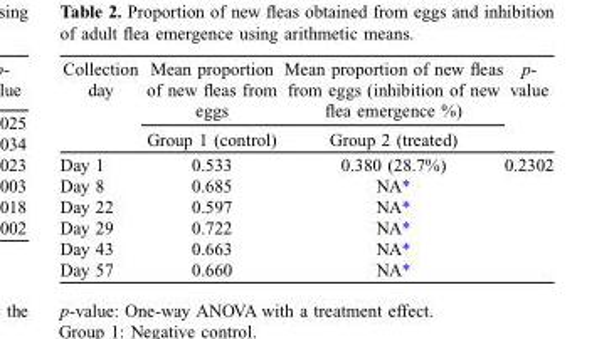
<table><thead><tr><td rowspan="2">Collection day</td><td rowspan="2">Mean proportion of new fleas from eggs Group 1 (control)</td><td rowspan="2">Mean proportion of new fleas from eggs (inhibition of new flea emergence %) Group 2 (treated)</td><td rowspan="2">p- value</td></tr><tr></tr></thead><tbody><tr><td>Day 1</td><td>0.533</td><td>0.380 (28.7%)</td><td>0.2302</td></tr><tr><td>Day 8</td><td>0.685</td><td>NA*</td><td></td></tr><tr><td>Day 22</td><td>0.597</td><td>NA*</td><td></td></tr><tr><td>Day 29</td><td>0.722</td><td>NA*</td><td></td></tr><tr><td>Day 43</td><td>0.663</td><td>NA*</td><td></td></tr><tr><td>Day 57</td><td>0.660</td><td>NA*</td><td></td></tr></tbody></table>